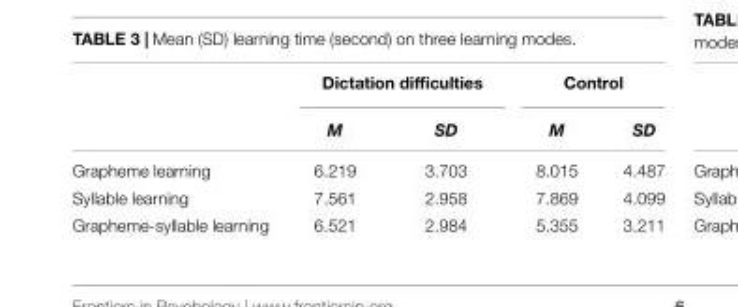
<table><thead><tr><td rowspan="2"></td><td colspan="2">Dictation difficulties</td><td colspan="2">Control</td></tr><tr><td>M</td><td>SD</td><td>M</td><td>SD</td></tr></thead><tbody><tr><td>Grapheme learning</td><td>6.219</td><td>3.703</td><td>8.015</td><td>4.487</td></tr><tr><td>Syllable learning</td><td>7.561</td><td>2.958</td><td>7.869</td><td>4.099</td></tr><tr><td>Grapheme-syllable learning</td><td>6.521</td><td>2.984</td><td>5.355</td><td>3.211</td></tr></tbody></table>